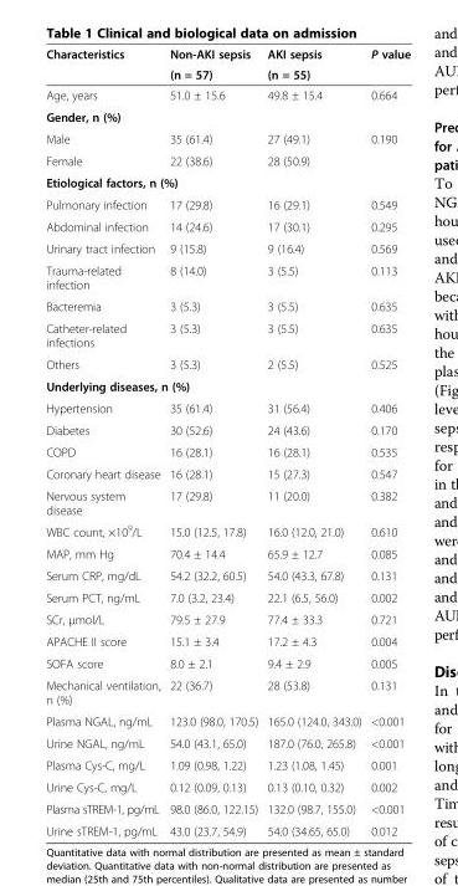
<table><thead><tr><td rowspan="2">Characteristics</td><td rowspan="2">Non-AKI sepsis (n = 57)</td><td rowspan="2">AKI sepsis (n = 55)</td><td rowspan="2">P value</td></tr><tr></tr></thead><tbody><tr><td>Age, years</td><td>51.0 ± 15.6</td><td>49.8 ± 15.4</td><td>0.664</td></tr><tr><td colspan="4">Gender, n (%)</td></tr><tr><td>Male</td><td>35 (61.4)</td><td>27 (49.1)</td><td rowspan="2">0.190</td></tr><tr><td>Female</td><td>22 (38.6)</td><td>28 (50.9)</td></tr><tr><td colspan="4">Etiological factors, n (%)</td></tr><tr><td>Pulmonary infection</td><td>17 (29.8)</td><td>16 (29.1)</td><td>0.549</td></tr><tr><td>Abdominal infection</td><td>14 (24.6)</td><td>17 (30.1)</td><td>0.295</td></tr><tr><td>Urinary tract infection</td><td>9 (15.8)</td><td>9 (16.4)</td><td>0.569</td></tr><tr><td>Trauma-related infection</td><td>8 (14.0)</td><td>3 (5.5)</td><td>0.113</td></tr><tr><td>Bacteremia</td><td>3 (5.3)</td><td>3 (5.5)</td><td>0.635</td></tr><tr><td>Catheter-related infections</td><td>3 (5.3)</td><td>3 (5.5)</td><td>0.635</td></tr><tr><td>Others</td><td>3 (5.3)</td><td>2 (5.5)</td><td>0.525</td></tr><tr><td colspan="4">Underlying diseases, n (%)</td></tr><tr><td>Hypertension</td><td>35 (61.4)</td><td>31 (56.4)</td><td>0.406</td></tr><tr><td>Diabetes</td><td>30 (52.6)</td><td>24 (43.6)</td><td>0.170</td></tr><tr><td>COPD</td><td>16 (28.1)</td><td>16 (28.1)</td><td>0.535</td></tr><tr><td>Coronary heart disease</td><td>16 (28.1)</td><td>15 (27.3)</td><td>0.547</td></tr><tr><td>Nervous system disease</td><td>17 (29.8)</td><td>11 (20.0)</td><td>0.382</td></tr><tr><td>WBC count, ×10<sup>9</sup>/L</td><td>15.0 (12.5, 17.8)</td><td>16.0 (12.0, 21.0)</td><td>0.610</td></tr><tr><td>MAP, mm Hg</td><td>70.4 ± 14.4</td><td>65.9 ± 12.7</td><td>0.085</td></tr><tr><td>Serum CRP, mg/dL</td><td>54.2 (32.2, 60.5)</td><td>54.0 (43.3, 67.8)</td><td>0.131</td></tr><tr><td>Serum PCT, ng/mL</td><td>7.0 (3.2, 23.4)</td><td>22.1 (6.5, 56.0)</td><td>0.002</td></tr><tr><td>SCr, μmol/L</td><td>79.5 ± 27.9</td><td>77.4 ± 33.3</td><td>0.721</td></tr><tr><td>APACHE II score</td><td>15.1 ± 3.4</td><td>17.2 ± 4.3</td><td>0.004</td></tr><tr><td>SOFA score</td><td>8.0 ± 2.1</td><td>9.4 ± 2.9</td><td>0.005</td></tr><tr><td>Mechanical ventilation, n (%)</td><td>22 (36.7)</td><td>28 (53.8)</td><td>0.131</td></tr><tr><td>Plasma NGAL, ng/mL</td><td>123.0 (98.0, 170.5)</td><td>165.0 (124.0, 343.0)</td><td>&lt;0.001</td></tr><tr><td>Urine NGAL, ng/mL</td><td>54.0 (43.1, 65.0)</td><td>187.0 (76.0, 265.8)</td><td>&lt;0.001</td></tr><tr><td>Plasma Cys-C, mg/L</td><td>1.09 (0.98, 1.22)</td><td>1.23 (1.08, 1.45)</td><td>0.001</td></tr><tr><td>Urine Cys-C, mg/L</td><td>0.12 (0.09, 0.13)</td><td>0.13 (0.10, 0.32)</td><td>0.002</td></tr><tr><td>Plasma sTREM-1, pg/mL</td><td>98.0 (86.0, 122.15)</td><td>132.0 (98.7, 155.0)</td><td>&lt;0.001</td></tr><tr><td>Urine sTREM-1, pg/mL</td><td>43.0 (23.7, 54.9)</td><td>54.0 (34.65, 65.0)</td><td>0.012</td></tr></tbody></table>